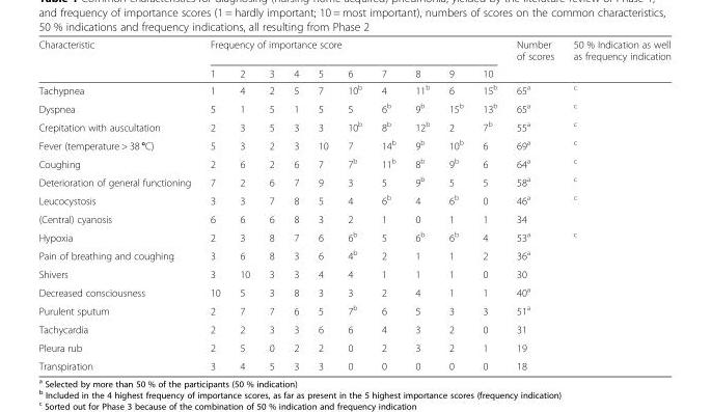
<table><thead><tr><td rowspan="2">Characteristic</td><td colspan="10">Frequency of importance score</td><td rowspan="2">Number of scores</td><td rowspan="2">50 % Indication as well as frequency indication</td></tr><tr><td>1</td><td>2</td><td>3</td><td>4</td><td>5</td><td>6</td><td>7</td><td>8</td><td>9</td><td>10</td></tr></thead><tbody><tr><td>Tachypnea</td><td>1</td><td>4</td><td>2</td><td>5</td><td>7</td><td>10<sup>b</sup></td><td>4</td><td>11<sup>b</sup></td><td>6</td><td>15<sup>b</sup></td><td>65<sup>a</sup></td><td><sup>c</sup></td></tr><tr><td>Dyspnea</td><td>5</td><td>1</td><td>5</td><td>1</td><td>5</td><td>5</td><td>6<sup>b</sup></td><td>9<sup>b</sup></td><td>15<sup>b</sup></td><td>13<sup>b</sup></td><td>65<sup>a</sup></td><td><sup>c</sup></td></tr><tr><td>Crepitation with auscultation</td><td>2</td><td>3</td><td>5</td><td>3</td><td>3</td><td>10<sup>b</sup></td><td>8<sup>b</sup></td><td>12<sup>b</sup></td><td>2</td><td>7<sup>b</sup></td><td>55<sup>a</sup></td><td><sup>c</sup></td></tr><tr><td>Fever (temperature &gt; 38 °C)</td><td>5</td><td>3</td><td>2</td><td>3</td><td>10</td><td>7</td><td>14<sup>b</sup></td><td>9<sup>b</sup></td><td>10<sup>b</sup></td><td>6</td><td>69<sup>a</sup></td><td><sup>c</sup></td></tr><tr><td>Coughing</td><td>2</td><td>6</td><td>2</td><td>6</td><td>7</td><td>7<sup>b</sup></td><td>11<sup>b</sup></td><td>8<sup>b</sup></td><td>9<sup>b</sup></td><td>6</td><td>64<sup>a</sup></td><td><sup>c</sup></td></tr><tr><td>Deterioration of general functioning</td><td>7</td><td>2</td><td>6</td><td>7</td><td>9</td><td>3</td><td>5</td><td>9<sup>b</sup></td><td>5</td><td>5</td><td>58<sup>a</sup></td><td><sup>c</sup></td></tr><tr><td>Leucocystosis</td><td>3</td><td>3</td><td>7</td><td>8</td><td>5</td><td>4</td><td>6<sup>b</sup></td><td>4</td><td>6<sup>b</sup></td><td>0</td><td>46<sup>a</sup></td><td><sup>c</sup></td></tr><tr><td>(Central) cyanosis</td><td>6</td><td>6</td><td>6</td><td>8</td><td>3</td><td>2</td><td>1</td><td>0</td><td>1</td><td>1</td><td>34</td><td></td></tr><tr><td>Hypoxia</td><td>2</td><td>3</td><td>8</td><td>7</td><td>6</td><td>6<sup>b</sup></td><td>5</td><td>6<sup>b</sup></td><td>6<sup>b</sup></td><td>4</td><td>53<sup>a</sup></td><td><sup>c</sup></td></tr><tr><td>Pain of breathing and coughing</td><td>3</td><td>6</td><td>8</td><td>3</td><td>6</td><td>4<sup>b</sup></td><td>2</td><td>1</td><td>1</td><td>2</td><td>36<sup>a</sup></td><td></td></tr><tr><td>Shivers</td><td>3</td><td>10</td><td>3</td><td>3</td><td>4</td><td>4</td><td>1</td><td>1</td><td>1</td><td>0</td><td>30</td><td></td></tr><tr><td>Decreased consciousness</td><td>10</td><td>5</td><td>3</td><td>8</td><td>3</td><td>3</td><td>2</td><td>4</td><td>1</td><td>1</td><td>40<sup>a</sup></td><td></td></tr><tr><td>Purulent sputum</td><td>2</td><td>7</td><td>7</td><td>6</td><td>5</td><td>7<sup>b</sup></td><td>6</td><td>5</td><td>3</td><td>3</td><td>51<sup>a</sup></td><td></td></tr><tr><td>Tachycardia</td><td>2</td><td>2</td><td>3</td><td>3</td><td>6</td><td>6</td><td>4</td><td>3</td><td>2</td><td>0</td><td>31</td><td></td></tr><tr><td>Pleura rub</td><td>2</td><td>5</td><td>0</td><td>2</td><td>2</td><td>0</td><td>2</td><td>3</td><td>2</td><td>1</td><td>19</td><td></td></tr><tr><td>Transpiration</td><td>3</td><td>4</td><td>5</td><td>3</td><td>3</td><td>0</td><td>0</td><td>0</td><td>0</td><td>0</td><td>18</td><td></td></tr></tbody></table>